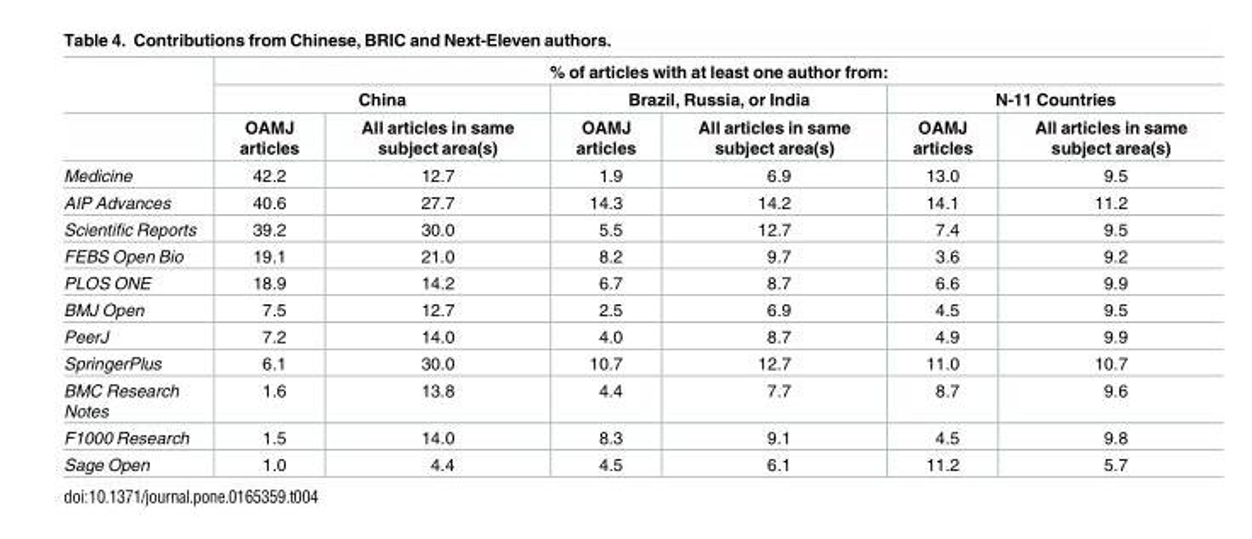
<table><thead><tr><td rowspan="3"></td><td colspan="6">% of articles with at least one author from:</td></tr><tr><td colspan="2">China</td><td colspan="2">Brazil, Russia, or India</td><td colspan="2">N-11 Countries</td></tr><tr><td>OAMJ articles</td><td>All articles in same subject area(s)</td><td>OAMJ articles</td><td>All articles in same subject area(s)</td><td>OAMJ articles</td><td>All articles in same subject area(s)</td></tr></thead><tbody><tr><td>Medicine</td><td>42.2</td><td>12.7</td><td>1.9</td><td>6.9</td><td>13.0</td><td>9.5</td></tr><tr><td>AIP Advances</td><td>40.6</td><td>27.7</td><td>14.3</td><td>14.2</td><td>14.1</td><td>11.2</td></tr><tr><td>Scientific Reports</td><td>39.2</td><td>30.0</td><td>5.5</td><td>12.7</td><td>7.4</td><td>9.5</td></tr><tr><td>FEBS Open Bio</td><td>19.1</td><td>21.0</td><td>8.2</td><td>9.7</td><td>3.6</td><td>9.2</td></tr><tr><td>PLOS ONE</td><td>18.9</td><td>14.2</td><td>6.7</td><td>8.7</td><td>6.6</td><td>9.9</td></tr><tr><td>BMJ Open</td><td>7.5</td><td>12.7</td><td>2.5</td><td>6.9</td><td>4.5</td><td>9.5</td></tr><tr><td>PeerJ</td><td>7.2</td><td>14.0</td><td>4.0</td><td>8.7</td><td>4.9</td><td>9.9</td></tr><tr><td>SpringerPlus</td><td>6.1</td><td>30.0</td><td>10.7</td><td>12.7</td><td>11.0</td><td>10.7</td></tr><tr><td>BMC Research Notes</td><td>1.6</td><td>13.8</td><td>4.4</td><td>7.7</td><td>8.7</td><td>9.6</td></tr><tr><td>F1000 Research</td><td>1.5</td><td>14.0</td><td>8.3</td><td>9.1</td><td>4.5</td><td>9.8</td></tr><tr><td>Sage Open</td><td>1.0</td><td>4.4</td><td>4.5</td><td>6.1</td><td>11.2</td><td>5.7</td></tr></tbody></table>